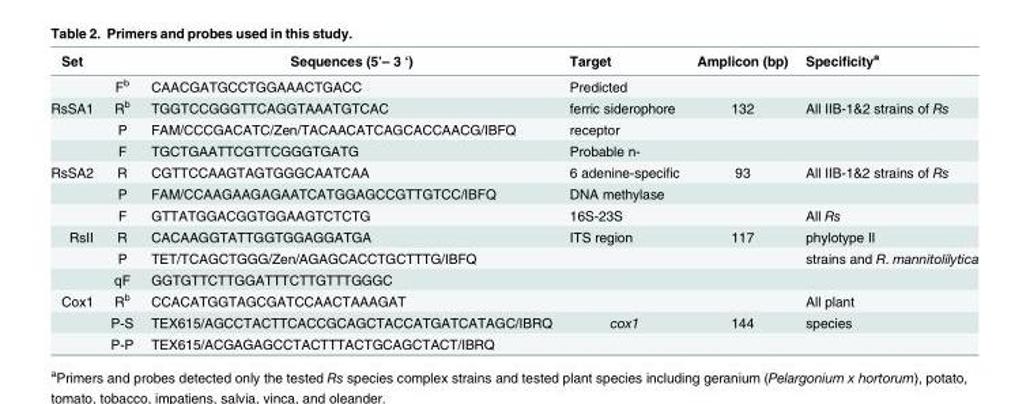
<table><thead><tr><td>Set</td><td></td><td>Sequences (5’– 3 ‘)</td><td>Target</td><td>Amplicon (bp)</td><td>Specificity<sup>a</sup></td></tr></thead><tbody><tr><td></td><td>F<sup>b</sup></td><td>CAACGATGCCTGGAAACTGACC</td><td>Predicted</td><td></td><td></td></tr><tr><td rowspan="3">RsSA1</td><td>R<sup>b</sup></td><td>TGGTCCGGGTTCAGGTAAATGTCAC</td><td>ferric siderophore</td><td>132</td><td>All IIB-1&amp;2 strains of Rs</td></tr><tr><td>P</td><td>FAM/CCCGACATC/Zen/TACAACATCAGCACCAACG/IBFQ</td><td>receptor</td><td></td><td></td></tr><tr><td>F</td><td>TGCTGAATTCGTTCGGGTGATG</td><td>Probable n-</td><td></td><td></td></tr><tr><td rowspan="3">RsSA2</td><td>R</td><td>CGTTCCAAGTAGTGGGCAATCAA</td><td>6 adenine-specific</td><td>93</td><td>All IIB-1&amp;2 strains of Rs</td></tr><tr><td>P</td><td>FAM/CCAAGAAGAGAATCATGGAGCCGTTGTCC/IBFQ</td><td>DNA methylase</td><td></td><td></td></tr><tr><td>F</td><td>GTTATGGACGGTGGAAGTCTCTG</td><td>16S-23S</td><td></td><td>All Rs</td></tr><tr><td rowspan="3">RsII</td><td>R</td><td>CACAAGGTATTGGTGGAGGATGA</td><td>ITS region</td><td>117</td><td>phylotype II</td></tr><tr><td>P</td><td>TET/TCAGCTGGG/Zen/AGAGCACCTGCTTTG/IBFQ</td><td></td><td></td><td>strains and R. mannitolilytica</td></tr><tr><td>qF</td><td>GGTGTTCTTGGATTTCTTGTTTGGGC</td><td></td><td></td><td></td></tr><tr><td rowspan="3">Cox1</td><td>R<sup>b</sup></td><td>CCACATGGTAGCGATCCAACTAAAGAT</td><td></td><td></td><td>All plant</td></tr><tr><td>P-S</td><td>TEX615/AGCCTACTTCACCGCAGCTACCATGATCATAGC/IBRQ</td><td>cox1</td><td>144</td><td>species</td></tr><tr><td>P-P</td><td>TEX615/ACGAGAGCCTACTTTACTGCAGCTACT/IBRQ</td><td></td><td></td><td></td></tr></tbody></table>